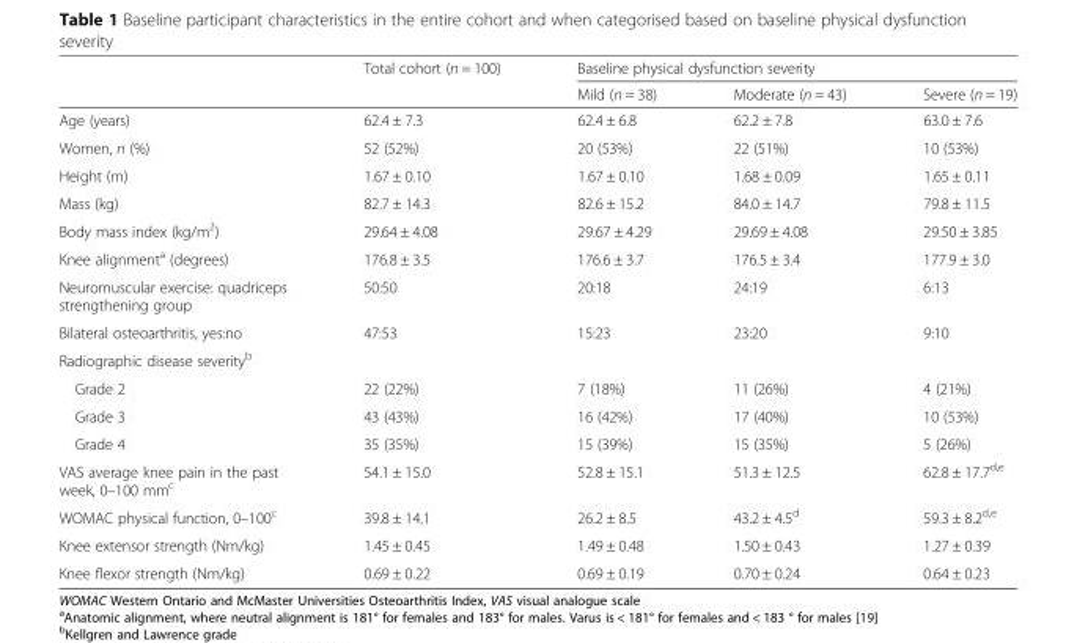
<table><thead><tr><td rowspan="2"></td><td rowspan="2">Total cohort (n = 100)</td><td colspan="3">Baseline physical dysfunction severity</td></tr><tr><td>Mild (n = 38)</td><td>Moderate (n = 43)</td><td>Severe (n = 19)</td></tr></thead><tbody><tr><td>Age (years)</td><td>62.4 ± 7.3</td><td>62.4 ± 6.8</td><td>62.2 ± 7.8</td><td>63.0 ± 7.6</td></tr><tr><td>Women, n (%)</td><td>52 (52%)</td><td>20 (53%)</td><td>22 (51%)</td><td>10 (53%)</td></tr><tr><td>Height (m)</td><td>1.67 ± 0.10</td><td>1.67 ± 0.10</td><td>1.68 ± 0.09</td><td>1.65 ± 0.11</td></tr><tr><td>Mass (kg)</td><td>82.7 ± 14.3</td><td>82.6 ± 15.2</td><td>84.0 ± 14.7</td><td>79.8 ± 11.5</td></tr><tr><td>Body mass index (kg/m<sup>2</sup>)</td><td>29.64 ± 4.08</td><td>29.67 ± 4.29</td><td>29.69 ± 4.08</td><td>29.50 ± 3.85</td></tr><tr><td>Knee alignment<sup>a</sup> (degrees)</td><td>176.8 ± 3.5</td><td>176.6 ± 3.7</td><td>176.5 ± 3.4</td><td>177.9 ± 3.0</td></tr><tr><td>Neuromuscular exercise: quadriceps strengthening group</td><td>50:50</td><td>20:18</td><td>24:19</td><td>6:13</td></tr><tr><td>Bilateral osteoarthritis, yes:no</td><td>47:53</td><td>15:23</td><td>23:20</td><td>9:10</td></tr><tr><td colspan="5">Radiographic disease severity<sup>b</sup></td></tr><tr><td>Grade 2</td><td>22 (22%)</td><td>7 (18%)</td><td>11 (26%)</td><td>4 (21%)</td></tr><tr><td>Grade 3</td><td>43 (43%)</td><td>16 (42%)</td><td>17 (40%)</td><td>10 (53%)</td></tr><tr><td>Grade 4</td><td>35 (35%)</td><td>15 (39%)</td><td>15 (35%)</td><td>5 (26%)</td></tr><tr><td>VAS average knee pain in the past week, 0–100 mm<sup>c</sup></td><td>54.1 ± 15.0</td><td>52.8 ± 15.1</td><td>51.3 ± 12.5</td><td>62.8 ± 17.7<sup>d,e</sup></td></tr><tr><td>WOMAC physical function, 0–100<sup>c</sup></td><td>39.8 ± 14.1</td><td>26.2 ± 8.5</td><td>43.2 ± 4.5<sup>d</sup></td><td>59.3 ± 8.2<sup>d,e</sup></td></tr><tr><td>Knee extensor strength (Nm/kg)</td><td>1.45 ± 0.45</td><td>1.49 ± 0.48</td><td>1.50 ± 0.43</td><td>1.27 ± 0.39</td></tr><tr><td>Knee flexor strength (Nm/kg)</td><td>0.69 ± 0.22</td><td>0.69 ± 0.19</td><td>0.70 ± 0.24</td><td>0.64 ± 0.23</td></tr></tbody></table>